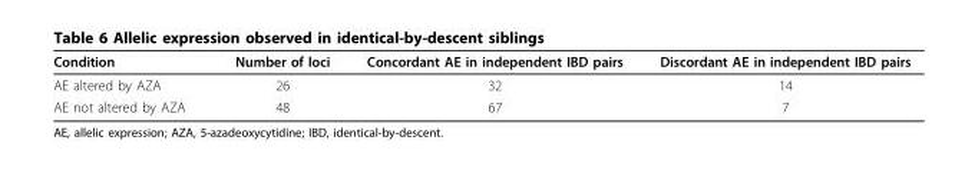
<table><thead><tr><td>Condition</td><td>Number of loci</td><td>Concordant AE in independent IBD pairs</td><td>Discordant AE in independent IBD pairs</td></tr></thead><tbody><tr><td>AE altered by AZA</td><td>26</td><td>32</td><td>14</td></tr><tr><td>AE not altered by AZA</td><td>48</td><td>67</td><td>7</td></tr></tbody></table>